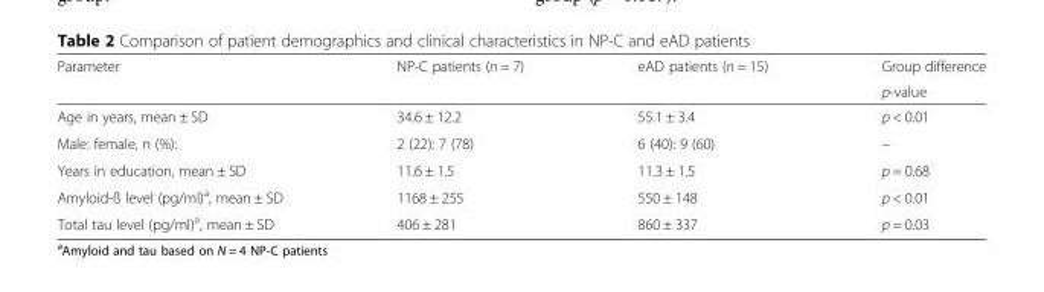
<table><thead><tr><td rowspan="2">Parameter</td><td rowspan="2">NP-C patients (n = 7)</td><td rowspan="2">eAD patients (n = 15)</td><td rowspan="2">Group difference p-value</td></tr><tr></tr></thead><tbody><tr><td>Age in years, mean ± SD</td><td>34.6 ± 12.2</td><td>55.1 ± 3.4</td><td>p &lt; 0.01</td></tr><tr><td>Male: female, n (%):</td><td>2 (22): 7 (78)</td><td>6 (40): 9 (60)</td><td>–</td></tr><tr><td>Years in education, mean ± SD</td><td>11.6 ± 1.5</td><td>11.3 ± 1.5</td><td>p = 0.68</td></tr><tr><td>Amyloid-ß level (pg/ml)<sup>a</sup>, mean ± SD</td><td>1168 ± 255</td><td>550 ± 148</td><td>p &lt; 0.01</td></tr><tr><td>Total tau level (pg/ml)<sup>a</sup>, mean ± SD</td><td>406 ± 281</td><td>860 ± 337</td><td>p = 0.03</td></tr></tbody></table>